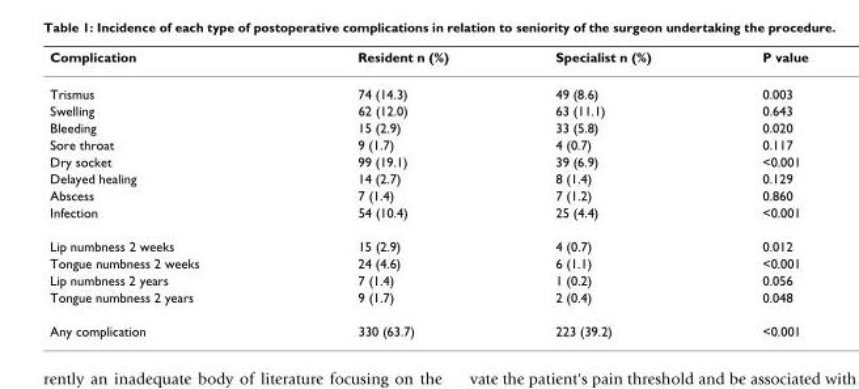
<table><thead><tr><td>Complication</td><td>Resident n (%)</td><td>Specialist n (%)</td><td>P value</td></tr></thead><tbody><tr><td>Trismus</td><td>74 (14.3)</td><td>49 (8.6)</td><td>0.003</td></tr><tr><td>Swelling</td><td>62 (12.0)</td><td>63 (11.1)</td><td>0.643</td></tr><tr><td>Bleeding</td><td>15 (2.9)</td><td>33 (5.8)</td><td>0.020</td></tr><tr><td>Sore throat</td><td>9 (1.7)</td><td>4 (0.7)</td><td>0.117</td></tr><tr><td>Dry socket</td><td>99 (19.1)</td><td>39 (6.9)</td><td>&lt;0.001</td></tr><tr><td>Delayed healing</td><td>14 (2.7)</td><td>8 (1.4)</td><td>0.129</td></tr><tr><td>Abscess</td><td>7 (1.4)</td><td>7 (1.2)</td><td>0.860</td></tr><tr><td>Infection</td><td>54 (10.4)</td><td>25 (4.4)</td><td>&lt;0.001</td></tr><tr><td>Lip numbness 2 weeks</td><td>15 (2.9)</td><td>4 (0.7)</td><td>0.012</td></tr><tr><td>Tongue numbness 2 weeks</td><td>24 (4.6)</td><td>6 (1.1)</td><td>&lt;0.001</td></tr><tr><td>Lip numbness 2 years</td><td>7 (1.4)</td><td>1 (0.2)</td><td>0.056</td></tr><tr><td>Tongue numbness 2 years</td><td>9 (1.7)</td><td>2 (0.4)</td><td>0.048</td></tr><tr><td>Any complication</td><td>330 (63.7)</td><td>223 (39.2)</td><td>&lt;0.001</td></tr></tbody></table>